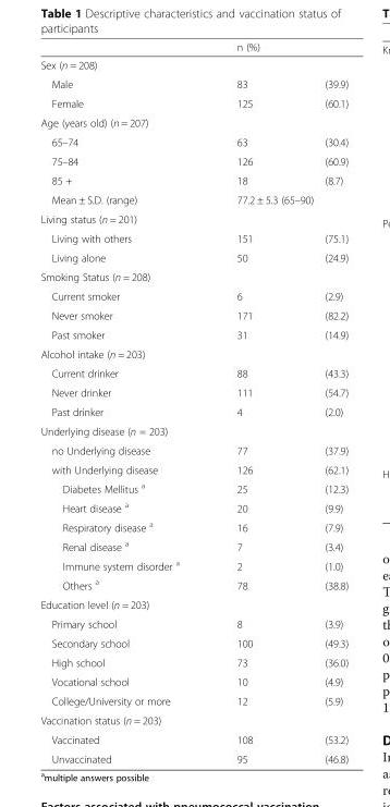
<table><thead><tr><td></td><td colspan="2">n (%)</td></tr><tr><td colspan="3">Sex (n = 208)</td></tr><tr><td>Male</td><td>83</td><td>(39.9)</td></tr></thead><tbody><tr><td>Female</td><td>125</td><td>(60.1)</td></tr><tr><td colspan="3">Age (years old) (n = 207)</td></tr><tr><td>65–74</td><td>63</td><td>(30.4)</td></tr><tr><td>75–84</td><td>126</td><td>(60.9)</td></tr><tr><td>85 +</td><td>18</td><td>(8.7)</td></tr><tr><td>Mean ± S.D. (range)</td><td colspan="2">77.2 ± 5.3 (65–90)</td></tr><tr><td colspan="3">Living status (n = 201)</td></tr><tr><td>Living with others</td><td>151</td><td>(75.1)</td></tr><tr><td>Living alone</td><td>50</td><td>(24.9)</td></tr><tr><td colspan="3">Smoking Status (n = 208)</td></tr><tr><td>Current smoker</td><td>6</td><td>(2.9)</td></tr><tr><td>Never smoker</td><td>171</td><td>(82.2)</td></tr><tr><td>Past smoker</td><td>31</td><td>(14.9)</td></tr><tr><td colspan="3">Alcohol intake (n = 203)</td></tr><tr><td>Current drinker</td><td>88</td><td>(43.3)</td></tr><tr><td>Never drinker</td><td>111</td><td>(54.7)</td></tr><tr><td>Past drinker</td><td>4</td><td>(2.0)</td></tr><tr><td colspan="3">Underlying disease (n = 203)</td></tr><tr><td>no Underlying disease</td><td>77</td><td>(37.9)</td></tr><tr><td>with Underlying disease</td><td>126</td><td>(62.1)</td></tr><tr><td>Diabetes Mellitus <sup>a</sup></td><td>25</td><td>(12.3)</td></tr><tr><td>Heart disease <sup>a</sup></td><td>20</td><td>(9.9)</td></tr><tr><td>Respiratory disease <sup>a</sup></td><td>16</td><td>(7.9)</td></tr><tr><td>Renal disease <sup>a</sup></td><td>7</td><td>(3.4)</td></tr><tr><td>Immune system disorder <sup>a</sup></td><td>2</td><td>(1.0)</td></tr><tr><td>Others <sup>a</sup></td><td>78</td><td>(38.8)</td></tr><tr><td colspan="3">Education level (n = 203)</td></tr><tr><td>Primary school</td><td>8</td><td>(3.9)</td></tr><tr><td>Secondary school</td><td>100</td><td>(49.3)</td></tr><tr><td>High school</td><td>73</td><td>(36.0)</td></tr><tr><td>Vocational school</td><td>10</td><td>(4.9)</td></tr><tr><td>College/University or more</td><td>12</td><td>(5.9)</td></tr><tr><td colspan="3">Vaccination status (n = 203)</td></tr><tr><td>Vaccinated</td><td>108</td><td>(53.2)</td></tr><tr><td>Unvaccinated</td><td>95</td><td>(46.8)</td></tr></tbody></table>